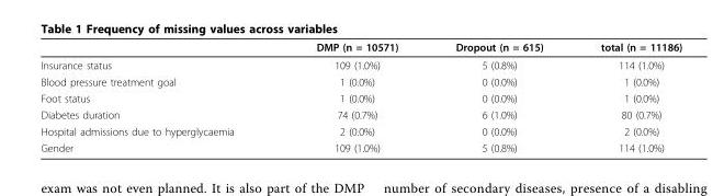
<table><thead><tr><td></td><td>DMP (n = 10571)</td><td>Dropout (n = 615)</td><td>total (n = 11186)</td></tr></thead><tbody><tr><td>Insurance status</td><td>109 (1.0%)</td><td>5 (0.8%)</td><td>114 (1.0%)</td></tr><tr><td>Blood pressure treatment goal</td><td>1 (0.0%)</td><td>0 (0.0%)</td><td>1 (0.0%)</td></tr><tr><td>Foot status</td><td>1 (0.0%)</td><td>0 (0.0%)</td><td>1 (0.0%)</td></tr><tr><td>Diabetes duration</td><td>74 (0.7%)</td><td>6 (1.0%)</td><td>80 (0.7%)</td></tr><tr><td>Hospital admissions due to hyperglycaemia</td><td>2 (0.0%)</td><td>0 (0.0%)</td><td>2 (0.0%)</td></tr><tr><td>Gender</td><td>109 (1.0%)</td><td>5 (0.8%)</td><td>114 (1.0%)</td></tr></tbody></table>